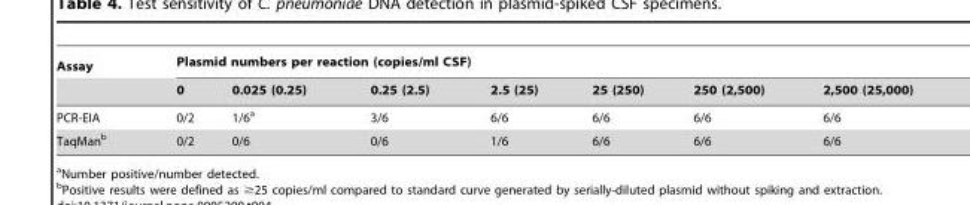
<table><thead><tr><td rowspan="2">Assay</td><td colspan="7">Plasmid numbers per reaction (copies/ml CSF)</td></tr><tr><td>0</td><td>0.025 (0.25)</td><td>0.25 (2.5)</td><td>2.5 (25)</td><td>25 (250)</td><td>250 (2,500)</td><td>2,500 (25,000)</td></tr></thead><tbody><tr><td>PCR-EIA</td><td>0/2</td><td>1/6<sup>a</sup></td><td>3/6</td><td>6/6</td><td>6/6</td><td>6/6</td><td>6/6</td></tr><tr><td>TaqMan<sup>b</sup></td><td>0/2</td><td>0/6</td><td>0/6</td><td>1/6</td><td>6/6</td><td>6/6</td><td>6/6</td></tr></tbody></table>